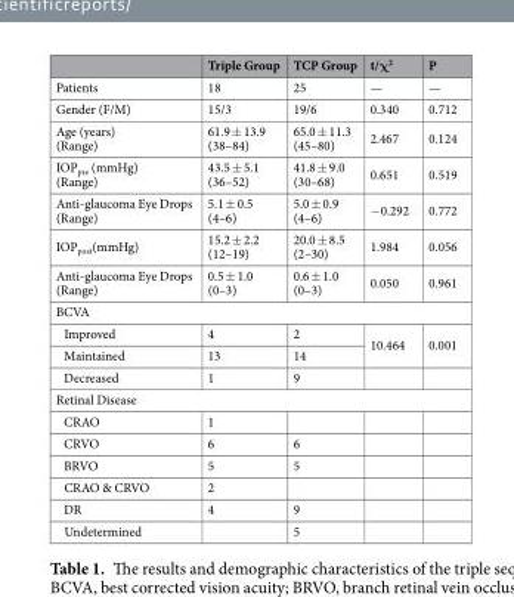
<table><thead><tr><td></td><td>Triple Group</td><td>TCP Group</td><td>t/χ<sup>2</sup></td><td>P</td></tr></thead><tbody><tr><td>Patients</td><td>18</td><td>25</td><td>—</td><td>—</td></tr><tr><td>Gender (F/M)</td><td>15/3</td><td>19/6</td><td>0.340</td><td>0.712</td></tr><tr><td>Age (years) (Range)</td><td>61.9 ± 13.9 (38–84)</td><td>65.0 ± 11.3 (45–80)</td><td>2.467</td><td>0.124</td></tr><tr><td>IOP<sub>pre</sub> (mmHg) (Range)</td><td>43.5 ± 5.1 (36–52)</td><td>41.8 ± 9.0 (30–68)</td><td>0.651</td><td>0.519</td></tr><tr><td>Anti-glaucoma Eye Drops (Range)</td><td>5.1 ± 0.5 (4–6)</td><td>5.0 ± 0.9 (4–6)</td><td>−0.292</td><td>0.772</td></tr><tr><td>IOP<sub>post</sub>(mmHg)</td><td>15.2 ± 2.2 (12–19)</td><td>20.0 ± 8.5 (2–30)</td><td>1.984</td><td>0.056</td></tr><tr><td>Anti-glaucoma Eye Drops (Range)</td><td>0.5 ± 1.0 (0–3)</td><td>0.6 ± 1.0 (0–3)</td><td>0.050</td><td>0.961</td></tr><tr><td colspan="5">BCVA</td></tr><tr><td>Improved</td><td>4</td><td>2</td><td rowspan="2">10.464</td><td rowspan="2">0.001</td></tr><tr><td>Maintained</td><td>13</td><td>14</td></tr><tr><td>Decreased</td><td>1</td><td>9</td><td></td><td></td></tr><tr><td colspan="5">Retinal Disease</td></tr><tr><td>CRAO</td><td>1</td><td></td><td></td><td></td></tr><tr><td>CRVO</td><td>6</td><td>6</td><td></td><td></td></tr><tr><td>BRVO</td><td>5</td><td>5</td><td></td><td></td></tr><tr><td>CRAO &amp; CRVO</td><td>2</td><td></td><td></td><td></td></tr><tr><td>DR</td><td>4</td><td>9</td><td></td><td></td></tr><tr><td>Undetermined</td><td></td><td>5</td><td></td><td></td></tr></tbody></table>